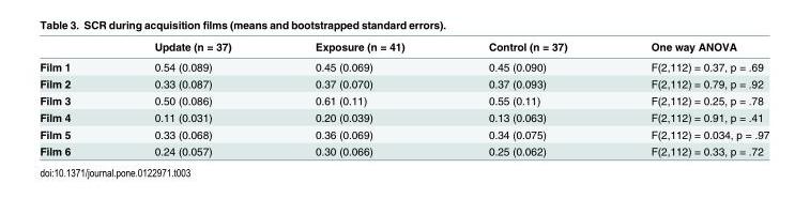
<table><thead><tr><td></td><td>Update (n = 37)</td><td>Exposure (n = 41)</td><td>Control (n = 37)</td><td>One way ANOVA</td></tr></thead><tbody><tr><td>Film 1</td><td>0.54 (0.089)</td><td>0.45 (0.069)</td><td>0.45 (0.090)</td><td>F(2,112) = 0.37, p = .69</td></tr><tr><td>Film 2</td><td>0.33 (0.087)</td><td>0.37 (0.070)</td><td>0.37 (0.093)</td><td>F(2,112) = 0.79, p = .92</td></tr><tr><td>Film 3</td><td>0.50 (0.086)</td><td>0.61 (0.11)</td><td>0.55 (0.11)</td><td>F(2,112) = 0.25, p = .78</td></tr><tr><td>Film 4</td><td>0.11 (0.031)</td><td>0.20 (0.039)</td><td>0.13 (0.063)</td><td>F(2,112) = 0.91, p = .41</td></tr><tr><td>Film 5</td><td>0.33 (0.068)</td><td>0.36 (0.069)</td><td>0.34 (0.075)</td><td>F(2,112) = 0.034, p = .97</td></tr><tr><td>Film 6</td><td>0.24 (0.057)</td><td>0.30 (0.066)</td><td>0.25 (0.062)</td><td>F(2,112) = 0.33, p = .72</td></tr></tbody></table>